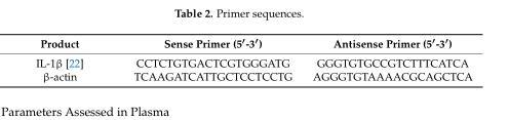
<table><thead><tr><td>Product</td><td>Sense Primer (5′-3′)</td><td>Antisense Primer (5′-3′)</td></tr></thead><tbody><tr><td>IL-1β [22]</td><td>CCTCTGTGACTCGTGGGATG</td><td>GGGTGTGCCGTCTTTCATCA</td></tr><tr><td>β-actin</td><td>TCAAGATCATTGCTCCTCCTG</td><td>AGGGTGTAAAACGCAGCTCA</td></tr></tbody></table>